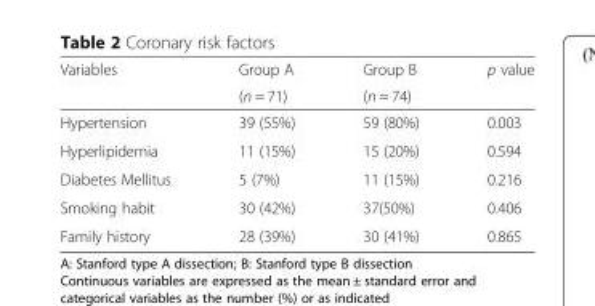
<table><thead><tr><td rowspan="2">Variables</td><td rowspan="2">Group A (n = 71)</td><td rowspan="2">Group B (n = 74)</td><td rowspan="2">p value</td></tr><tr></tr></thead><tbody><tr><td>Hypertension</td><td>39 (55%)</td><td>59 (80%)</td><td>0.003</td></tr><tr><td>Hyperlipidemia</td><td>11 (15%)</td><td>15 (20%)</td><td>0.594</td></tr><tr><td>Diabetes Mellitus</td><td>5 (7%)</td><td>11 (15%)</td><td>0.216</td></tr><tr><td>Smoking habit</td><td>30 (42%)</td><td>37(50%)</td><td>0.406</td></tr><tr><td>Family history</td><td>28 (39%)</td><td>30 (41%)</td><td>0.865</td></tr></tbody></table>